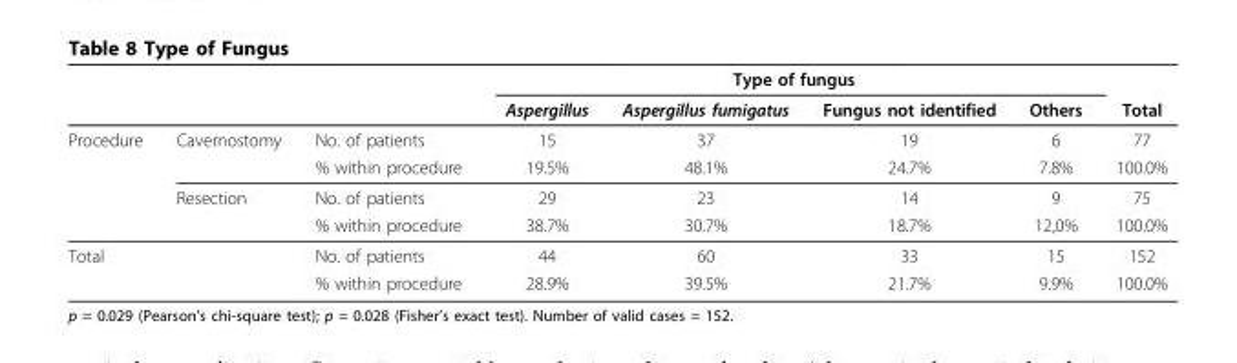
<table><thead><tr><td rowspan="2"></td><td rowspan="2"></td><td rowspan="2"></td><td colspan="4">Type of fungus</td><td rowspan="2">Total</td></tr><tr><td>Aspergillus</td><td>Aspergillus fumigatus</td><td>Fungus not identified</td><td>Others</td></tr></thead><tbody><tr><td rowspan="4">Procedure</td><td>Cavernostomy</td><td>No. of patients</td><td>15</td><td>37</td><td>19</td><td>6</td><td>77</td></tr><tr><td></td><td>% within procedure</td><td>19.5%</td><td>48.1%</td><td>24.7%</td><td>7.8%</td><td>100.0%</td></tr><tr><td>Resection</td><td>No. of patients</td><td>29</td><td>23</td><td>14</td><td>9</td><td>75</td></tr><tr><td></td><td>% within procedure</td><td>38.7%</td><td>30.7%</td><td>18.7%</td><td>12,0%</td><td>100.0%</td></tr><tr><td rowspan="2">Total</td><td></td><td>No. of patients</td><td>44</td><td>60</td><td>33</td><td>15</td><td>152</td></tr><tr><td></td><td>% within procedure</td><td>28.9%</td><td>39.5%</td><td>21.7%</td><td>9.9%</td><td>100.0%</td></tr></tbody></table>